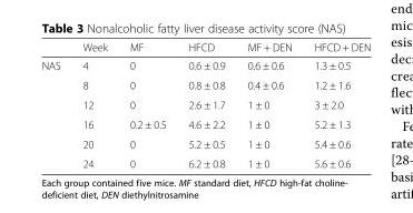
<table><thead><tr><td></td><td>Week</td><td>MF</td><td>HFCD</td><td>MF + DEN</td><td>HFCD + DEN</td></tr></thead><tbody><tr><td rowspan="6">NAS</td><td>4</td><td>0</td><td>0.6 ± 0.9</td><td>0.6 ± 0.6</td><td>1.3 ± 0.5</td></tr><tr><td>8</td><td>0</td><td>0.8 ± 0.8</td><td>0.4 ± 0.6</td><td>1.2 ± 1.6</td></tr><tr><td>12</td><td>0</td><td>2.6 ± 1.7</td><td>1 ± 0</td><td>3 ± 2.0</td></tr><tr><td>16</td><td>0.2 ± 0.5</td><td>4.6 ± 2.2</td><td>1 ± 0</td><td>5.2 ± 1.3</td></tr><tr><td>20</td><td>0</td><td>5.2 ± 0.5</td><td>1 ± 0</td><td>5.4 ± 0.6</td></tr><tr><td>24</td><td>0</td><td>6.2 ± 0.8</td><td>1 ± 0</td><td>5.6 ± 0.6</td></tr></tbody></table>